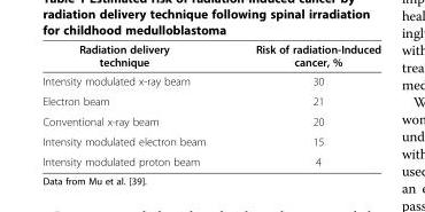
<table><thead><tr><td>Radiation delivery technique</td><td>Risk of radiation-Induced cancer, %</td></tr></thead><tbody><tr><td>Intensity modulated x-ray beam</td><td>30</td></tr><tr><td>Electron beam</td><td>21</td></tr><tr><td>Conventional x-ray beam</td><td>20</td></tr><tr><td>Intensity modulated electron beam</td><td>15</td></tr><tr><td>Intensity modulated proton beam</td><td>4</td></tr></tbody></table>